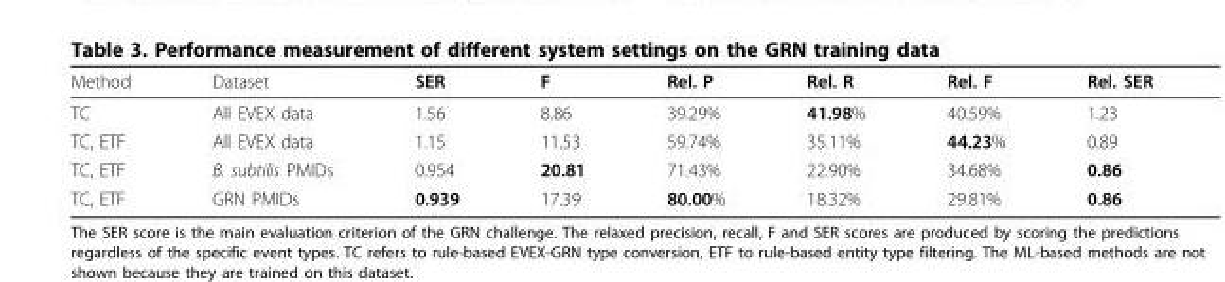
<table><thead><tr><td>Method</td><td>Dataset</td><td>SER</td><td>F</td><td>Rel. P</td><td>Rel. R</td><td>Rel. F</td><td>Rel. SER</td></tr></thead><tbody><tr><td>TC</td><td>All EVEX data</td><td>1.56</td><td>8.86</td><td>39.29%</td><td>41.98%</td><td>40.59%</td><td>1.23</td></tr><tr><td>TC, ETF</td><td>All EVEX data</td><td>1.15</td><td>11.53</td><td>59.74%</td><td>35.11%</td><td>44.23%</td><td>0.89</td></tr><tr><td>TC, ETF</td><td>B. subtilis PMIDs</td><td>0.954</td><td>20.81</td><td>71.43%</td><td>22.90%</td><td>34.68%</td><td>0.86</td></tr><tr><td>TC, ETF</td><td>GRN PMIDs</td><td>0.939</td><td>17.39</td><td>80.00%</td><td>18.32%</td><td>29.81%</td><td>0.86</td></tr></tbody></table>